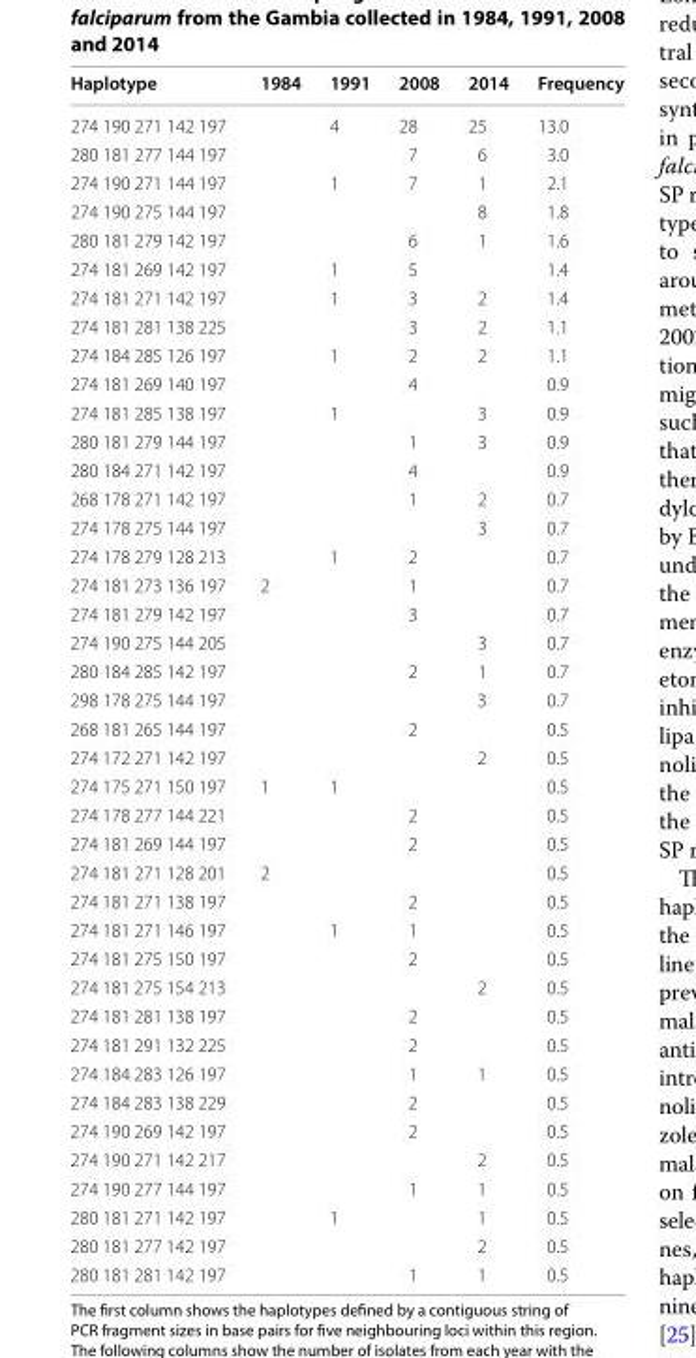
<table><thead><tr><td>Haplotype</td><td>1984</td><td>1991</td><td>2008</td><td>2014</td><td>Frequency</td></tr></thead><tbody><tr><td>274 190 271 142 197</td><td></td><td>4</td><td>28</td><td>25</td><td>13.0</td></tr><tr><td>280 181 277 144 197</td><td></td><td></td><td>7</td><td>6</td><td>3.0</td></tr><tr><td>274 190 271 144 197</td><td></td><td>1</td><td>7</td><td>1</td><td>2.1</td></tr><tr><td>274 190 275 144 197</td><td></td><td></td><td></td><td>8</td><td>1.8</td></tr><tr><td>280 181 279 142 197</td><td></td><td></td><td>6</td><td>1</td><td>1.6</td></tr><tr><td>274 181 269 142 197</td><td></td><td>1</td><td>5</td><td></td><td>1.4</td></tr><tr><td>274 181 271 142 197</td><td></td><td>1</td><td>3</td><td>2</td><td>1.4</td></tr><tr><td>274 181 281 138 225</td><td></td><td></td><td>3</td><td>2</td><td>1.1</td></tr><tr><td>274 184 285 126 197</td><td></td><td>1</td><td>2</td><td>2</td><td>1.1</td></tr><tr><td>274 181 269 140 197</td><td></td><td></td><td>4</td><td></td><td>0.9</td></tr><tr><td>274 181 285 138 197</td><td></td><td>1</td><td></td><td>3</td><td>0.9</td></tr><tr><td>280 181 279 144 197</td><td></td><td></td><td>1</td><td>3</td><td>0.9</td></tr><tr><td>280 184 271 142 197</td><td></td><td></td><td>4</td><td></td><td>0.9</td></tr><tr><td>268 178 271 142 197</td><td></td><td></td><td>1</td><td>2</td><td>0.7</td></tr><tr><td>274 178 275 144 197</td><td></td><td></td><td></td><td>3</td><td>0.7</td></tr><tr><td>274 178 279 128 213</td><td></td><td>1</td><td>2</td><td></td><td>0.7</td></tr><tr><td>274 181 273 136 197</td><td>2</td><td></td><td>1</td><td></td><td>0.7</td></tr><tr><td>274 181 279 142 197</td><td></td><td></td><td>3</td><td></td><td>0.7</td></tr><tr><td>274 190 275 144 205</td><td></td><td></td><td></td><td>3</td><td>0.7</td></tr><tr><td>280 184 285 142 197</td><td></td><td></td><td>2</td><td>1</td><td>0.7</td></tr><tr><td>298 178 275 144 197</td><td></td><td></td><td></td><td>3</td><td>0.7</td></tr><tr><td>268 181 265 144 197</td><td></td><td></td><td>2</td><td></td><td>0.5</td></tr><tr><td>274 172 271 142 197</td><td></td><td></td><td></td><td>2</td><td>0.5</td></tr><tr><td>274 175 271 150 197</td><td>1</td><td>1</td><td></td><td></td><td>0.5</td></tr><tr><td>274 178 277 144 221</td><td></td><td></td><td>2</td><td></td><td>0.5</td></tr><tr><td>274 181 269 144 197</td><td></td><td></td><td>2</td><td></td><td>0.5</td></tr><tr><td>274 181 271 128 201</td><td>2</td><td></td><td></td><td></td><td>0.5</td></tr><tr><td>274 181 271 138 197</td><td></td><td></td><td>2</td><td></td><td>0.5</td></tr><tr><td>274 181 271 146 197</td><td></td><td>1</td><td>1</td><td></td><td>0.5</td></tr><tr><td>274 181 275 150 197</td><td></td><td></td><td>2</td><td></td><td>0.5</td></tr><tr><td>274 181 275 154 213</td><td></td><td></td><td></td><td>2</td><td>0.5</td></tr><tr><td>274 181 281 138 197</td><td></td><td></td><td>2</td><td></td><td>0.5</td></tr><tr><td>274 181 291 132 225</td><td></td><td></td><td>2</td><td></td><td>0.5</td></tr><tr><td>274 184 283 126 197</td><td></td><td></td><td>1</td><td>1</td><td>0.5</td></tr><tr><td>274 184 283 138 229</td><td></td><td></td><td>2</td><td></td><td>0.5</td></tr><tr><td>274 190 269 142 197</td><td></td><td></td><td>2</td><td></td><td>0.5</td></tr><tr><td>274 190 271 142 217</td><td></td><td></td><td></td><td>2</td><td>0.5</td></tr><tr><td>274 190 277 144 197</td><td></td><td></td><td>1</td><td>1</td><td>0.5</td></tr><tr><td>280 181 271 142 197</td><td></td><td>1</td><td></td><td>1</td><td>0.5</td></tr><tr><td>280 181 277 142 197</td><td></td><td></td><td></td><td>2</td><td>0.5</td></tr><tr><td>280 181 281 142 197</td><td></td><td></td><td>1</td><td>1</td><td>0.5</td></tr></tbody></table>